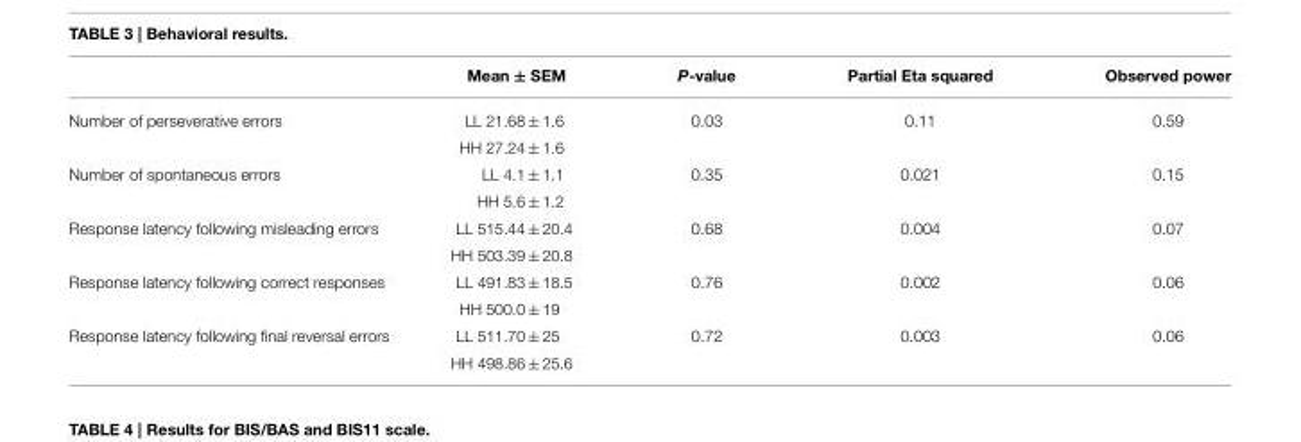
<table><thead><tr><td></td><td>Mean ± SEM</td><td>P-value</td><td>Partial Eta squared</td><td>Observed power</td></tr></thead><tbody><tr><td rowspan="2">Number of perseverative errors</td><td>LL 21.68 ± 1.6</td><td>0.03</td><td>0.11</td><td>0.59</td></tr><tr><td>HH 27.24 ± 1.6</td><td></td><td></td><td></td></tr><tr><td rowspan="2">Number of spontaneous errors</td><td>LL 4.1 ± 1.1</td><td>0.35</td><td>0.021</td><td>0.15</td></tr><tr><td>HH 5.6 ± 1.2</td><td></td><td></td><td></td></tr><tr><td rowspan="2">Response latency following misleading errors</td><td>LL 515.44 ± 20.4</td><td>0.68</td><td>0.004</td><td>0.07</td></tr><tr><td>HH 503.39 ± 20.8</td><td></td><td></td><td></td></tr><tr><td rowspan="2">Response latency following correct responses</td><td>LL 491.83 ± 18.5</td><td>0.76</td><td>0.002</td><td>0.06</td></tr><tr><td>HH 500.0 ± 19</td><td></td><td></td><td></td></tr><tr><td rowspan="2">Response latency following final reversal errors</td><td>LL 511.70 ± 25</td><td>0.72</td><td>0.003</td><td>0.06</td></tr><tr><td>HH 498.86 ± 25.6</td><td></td><td></td><td></td></tr></tbody></table>